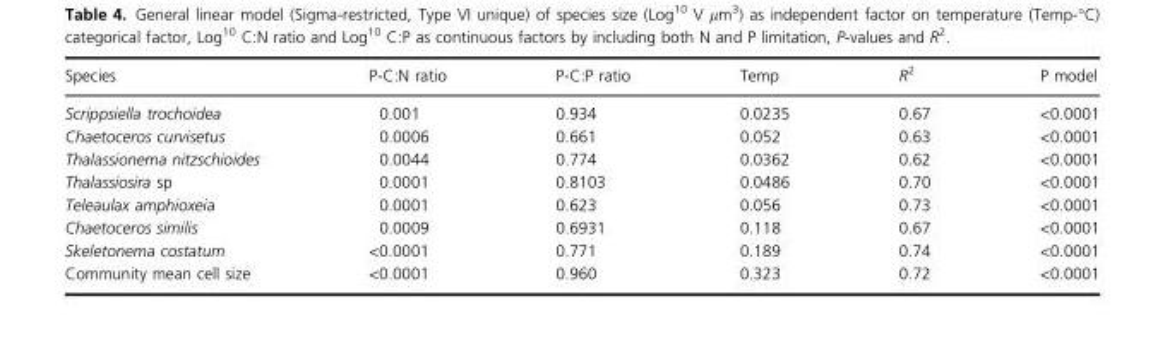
<table><thead><tr><td>Species</td><td>P-C:N ratio</td><td>P-C:P ratio</td><td>Temp</td><td>R<sup>2</sup></td><td>P model</td></tr></thead><tbody><tr><td>Scrippsiella trochoidea</td><td>0.001</td><td>0.934</td><td>0.0235</td><td>0.67</td><td>&lt;0.0001</td></tr><tr><td>Chaetoceros curvisetus</td><td>0.0006</td><td>0.661</td><td>0.052</td><td>0.63</td><td>&lt;0.0001</td></tr><tr><td>Thalassionema nitzschioides</td><td>0.0044</td><td>0.774</td><td>0.0362</td><td>0.62</td><td>&lt;0.0001</td></tr><tr><td>Thalassiosira sp</td><td>0.0001</td><td>0.8103</td><td>0.0486</td><td>0.70</td><td>&lt;0.0001</td></tr><tr><td>Teleaulax amphioxeia</td><td>0.0001</td><td>0.623</td><td>0.056</td><td>0.73</td><td>&lt;0.0001</td></tr><tr><td>Chaetoceros similis</td><td>0.0009</td><td>0.6931</td><td>0.118</td><td>0.67</td><td>&lt;0.0001</td></tr><tr><td>Skeletonema costatum</td><td>&lt;0.0001</td><td>0.771</td><td>0.189</td><td>0.74</td><td>&lt;0.0001</td></tr><tr><td>Community mean cell size</td><td>&lt;0.0001</td><td>0.960</td><td>0.323</td><td>0.72</td><td>&lt;0.0001</td></tr></tbody></table>